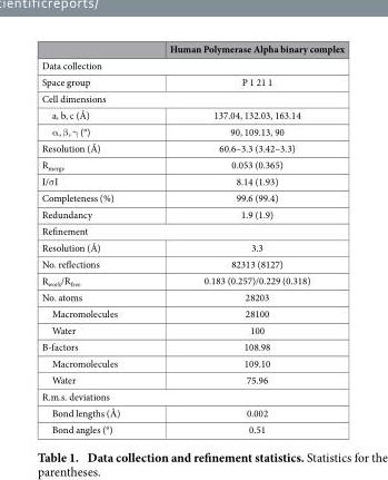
<table><thead><tr><td></td><td>Human Polymerase Alpha binary complex</td></tr></thead><tbody><tr><td colspan="2">Data collection</td></tr><tr><td>Space group</td><td>P 1 21 1</td></tr><tr><td colspan="2">Cell dimensions</td></tr><tr><td>a, b, c (Å)</td><td>137.04, 132.03, 163.14</td></tr><tr><td>α , β , γ (°)</td><td>90, 109.13, 90</td></tr><tr><td>Resolution (Å)</td><td>60.6–3.3 (3.42–3.3)</td></tr><tr><td>R<sub>merge</sub></td><td>0.053 (0.365)</td></tr><tr><td>I/σ I</td><td>8.14 (1.93)</td></tr><tr><td>Completeness (%)</td><td>99.6 (99.4)</td></tr><tr><td>Redundancy</td><td>1.9 (1.9)</td></tr><tr><td colspan="2">Refinement</td></tr><tr><td>Resolution (Å)</td><td>3.3</td></tr><tr><td>No. reflections</td><td>82313 (8127)</td></tr><tr><td>R<sub>work</sub>/R<sub>free</sub></td><td>0.183 (0.257)/0.229 (0.318)</td></tr><tr><td>No. atoms</td><td>28203</td></tr><tr><td>Macromolecules</td><td>28100</td></tr><tr><td>Water</td><td>100</td></tr><tr><td>B-factors</td><td>108.98</td></tr><tr><td>Macromolecules</td><td>109.10</td></tr><tr><td>Water</td><td>75.96</td></tr><tr><td colspan="2">R.m.s. deviations</td></tr><tr><td>Bond lengths (Å)</td><td>0.002</td></tr><tr><td>Bond angles (°)</td><td>0.51</td></tr></tbody></table>